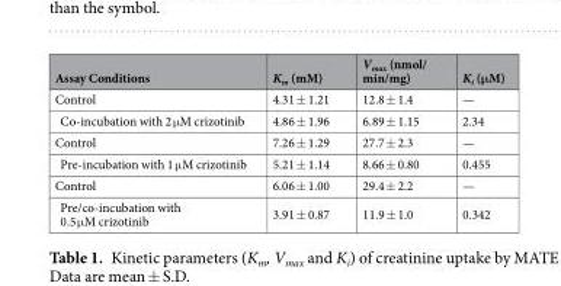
<table><thead><tr><td>Assay Conditions</td><td>K<sub>m</sub> (mM)</td><td>V<sub>max</sub> (nmol/ min/mg)</td><td>K<sub>i</sub> (μM)</td></tr></thead><tbody><tr><td>Control</td><td>4.31 ± 1.21</td><td>12.8 ± 1.4</td><td>—</td></tr><tr><td>Co-incubation with 2 μM crizotinib</td><td>4.86 ± 1.96</td><td>6.89 ± 1.15</td><td>2.34</td></tr><tr><td>Control</td><td>7.26 ± 1.29</td><td>27.7 ± 2.3</td><td>—</td></tr><tr><td>Pre-incubation with 1 μM crizotinib</td><td>5.21 ± 1.14</td><td>8.66 ± 0.80</td><td>0.455</td></tr><tr><td>Control</td><td>6.06 ± 1.00</td><td>29.4 ± 2.2</td><td>—</td></tr><tr><td>Pre/co-incubation with 0.5 μM crizotinib</td><td>3.91 ± 0.87</td><td>11.9 ± 1.0</td><td>0.342</td></tr></tbody></table>